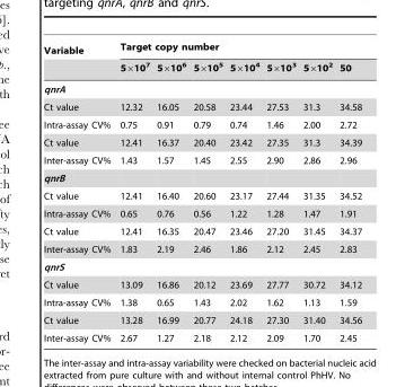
<table><thead><tr><td rowspan="2">Variable</td><td colspan="7">Target copy number</td></tr><tr><td>5×10<sup>7</sup></td><td>5×10<sup>6</sup></td><td>5×10<sup>5</sup></td><td>5×10<sup>4</sup></td><td>5×10<sup>3</sup></td><td>5×10<sup>2</sup></td><td>50</td></tr></thead><tbody><tr><td colspan="8">qnrA</td></tr><tr><td>Ct value</td><td>12.32</td><td>16.05</td><td>20.58</td><td>23.44</td><td>27.53</td><td>31.3</td><td>34.58</td></tr><tr><td>Intra-assay CV%</td><td>0.75</td><td>0.91</td><td>0.79</td><td>0.74</td><td>1.46</td><td>2.00</td><td>2.72</td></tr><tr><td>Ct value</td><td>12.41</td><td>16.37</td><td>20.40</td><td>23.42</td><td>27.35</td><td>31.3</td><td>34.39</td></tr><tr><td>Inter-assay CV%</td><td>1.43</td><td>1.57</td><td>1.45</td><td>2.55</td><td>2.90</td><td>2.86</td><td>2.96</td></tr><tr><td colspan="8">qnrB</td></tr><tr><td>Ct value</td><td>12.41</td><td>16.40</td><td>20.60</td><td>23.17</td><td>27.44</td><td>31.35</td><td>34.52</td></tr><tr><td>Intra-assay CV%</td><td>0.65</td><td>0.76</td><td>0.56</td><td>1.22</td><td>1.28</td><td>1.47</td><td>1.91</td></tr><tr><td>Ct value</td><td>12.41</td><td>16.35</td><td>20.47</td><td>23.46</td><td>27.20</td><td>31.45</td><td>34.37</td></tr><tr><td>Inter-assay CV%</td><td>1.83</td><td>2.19</td><td>2.46</td><td>1.86</td><td>2.12</td><td>2.45</td><td>2.83</td></tr><tr><td colspan="8">qnrS</td></tr><tr><td>Ct value</td><td>13.09</td><td>16.86</td><td>20.12</td><td>23.69</td><td>27.77</td><td>30.72</td><td>34.12</td></tr><tr><td>Intra-assay CV%</td><td>1.38</td><td>0.65</td><td>1.43</td><td>2.02</td><td>1.62</td><td>1.13</td><td>1.59</td></tr><tr><td>Ct value</td><td>13.28</td><td>16.99</td><td>20.77</td><td>24.18</td><td>27.30</td><td>31.40</td><td>34.56</td></tr><tr><td>Inter-assay CV%</td><td>2.67</td><td>1.27</td><td>2.18</td><td>2.12</td><td>2.09</td><td>1.70</td><td>2.45</td></tr></tbody></table>